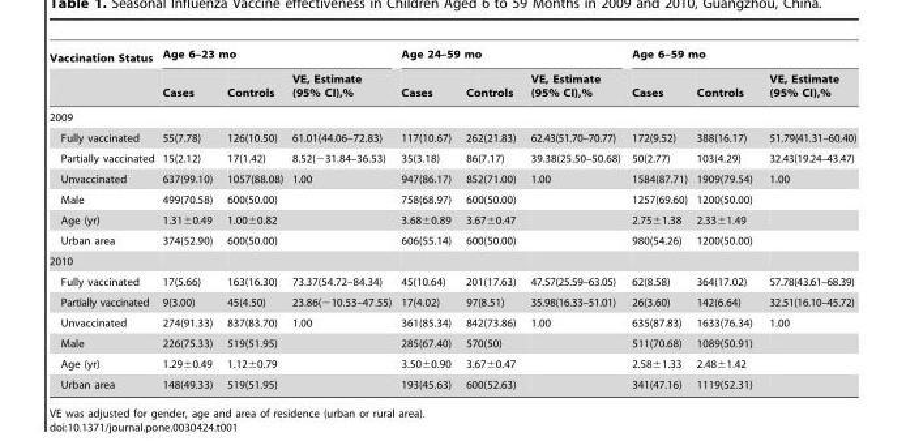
<table><thead><tr><td rowspan="2">Vaccination Status</td><td colspan="3">Age 6–23 mo</td><td colspan="3">Age 24–59 mo</td><td colspan="3">Age 6–59 mo</td></tr><tr><td>Cases</td><td>Controls</td><td>VE, Estimate (95% CI),%</td><td>Cases</td><td>Controls</td><td>VE, Estimate (95% CI),%</td><td>Cases</td><td>Controls</td><td>VE, Estimate (95% CI),%</td></tr></thead><tbody><tr><td colspan="10">2009</td></tr><tr><td>Fully vaccinated</td><td>55(7.78)</td><td>126(10.50)</td><td>61.01(44.06–72.83)</td><td>117(10.67)</td><td>262(21.83)</td><td>62.43(51.70–70.77)</td><td>172(9.52)</td><td>388(16.17)</td><td>51.79(41.31–60.40)</td></tr><tr><td>Partially vaccinated</td><td>15(2.12)</td><td>17(1.42)</td><td>8.52(−31.84–36.53)</td><td>35(3.18)</td><td>86(7.17)</td><td>39.38(25.50–50.68)</td><td>50(2.77)</td><td>103(4.29)</td><td>32.43(19.24–43.47)</td></tr><tr><td>Unvaccinated</td><td>637(99.10)</td><td>1057(88.08)</td><td>1.00</td><td>947(86.17)</td><td>852(71.00)</td><td>1.00</td><td>1584(87.71)</td><td>1909(79.54)</td><td>1.00</td></tr><tr><td>Male</td><td>499(70.58)</td><td>600(50.00)</td><td></td><td>758(68.97)</td><td>600(50.00)</td><td></td><td>1257(69.60)</td><td>1200(50.00)</td><td></td></tr><tr><td>Age (yr)</td><td>1.31±0.49</td><td>1.00±0.82</td><td></td><td>3.68±0.89</td><td>3.67±0.47</td><td></td><td>2.75±1.38</td><td>2.33±1.49</td><td></td></tr><tr><td>Urban area</td><td>374(52.90)</td><td>600(50.00)</td><td></td><td>606(55.14)</td><td>600(50.00)</td><td></td><td>980(54.26)</td><td>1200(50.00)</td><td></td></tr><tr><td colspan="10">2010</td></tr><tr><td>Fully vaccinated</td><td>17(5.66)</td><td>163(16.30)</td><td>73.37(54.72–84.34)</td><td>45(10.64)</td><td>201(17.63)</td><td>47.57(25.59–63.05)</td><td>62(8.58)</td><td>364(17.02)</td><td>57.78(43.61–68.39)</td></tr><tr><td>Partially vaccinated</td><td>9(3.00)</td><td>45(4.50)</td><td>23.86(−10.53–47.55)</td><td>17(4.02)</td><td>97(8.51)</td><td>35.98(16.33–51.01)</td><td>26(3.60)</td><td>142(6.64)</td><td>32.51(16.10–45.72)</td></tr><tr><td>Unvaccinated</td><td>274(91.33)</td><td>837(83.70)</td><td>1.00</td><td>361(85.34)</td><td>842(73.86)</td><td>1.00</td><td>635(87.83)</td><td>1633(76.34)</td><td>1.00</td></tr><tr><td>Male</td><td>226(75.33)</td><td>519(51.95)</td><td></td><td>285(67.40)</td><td>570(50)</td><td></td><td>511(70.68)</td><td>1089(50.91)</td><td></td></tr><tr><td>Age (yr)</td><td>1.29±0.49</td><td>1.12±0.79</td><td></td><td>3.50±0.90</td><td>3.67±0.47</td><td></td><td>2.58±1.33</td><td>2.48±1.42</td><td></td></tr><tr><td>Urban area</td><td>148(49.33)</td><td>519(51.95)</td><td></td><td>193(45.63)</td><td>600(52.63)</td><td></td><td>341(47.16)</td><td>1119(52.31)</td><td></td></tr></tbody></table>